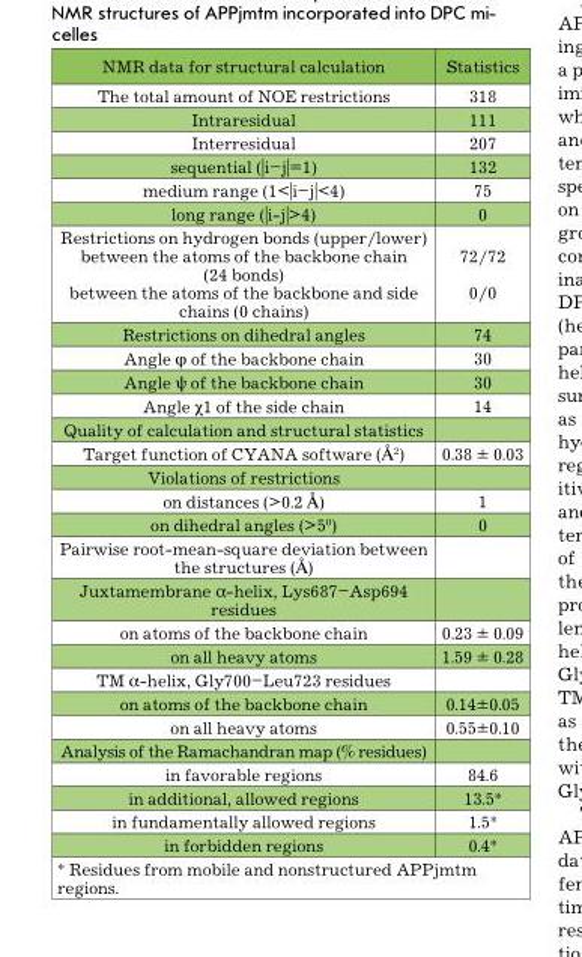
<table><thead><tr><td>NMR data for structural calculation</td><td>Statistics</td></tr></thead><tbody><tr><td>The total amount of NOE restrictions</td><td>318</td></tr><tr><td>Intraresidual</td><td>111</td></tr><tr><td>Interresidual</td><td>207</td></tr><tr><td>sequential (|i–j|=1)</td><td>132</td></tr><tr><td>medium range (1&lt;|i–j|&lt;4)</td><td>75</td></tr><tr><td>long range (|i-j|&gt;4)</td><td>0</td></tr><tr><td>Restrictions on hydrogen bonds (upper/lower) between the atoms of the backbone chain (24 bonds) between the atoms of the backbone and side chains (0 chains)</td><td>72/72 0/0</td></tr><tr><td>Restrictions on dihedral angles</td><td>74</td></tr><tr><td>Angle φ of the backbone chain</td><td>30</td></tr><tr><td>Angle ψ of the backbone chain</td><td>30</td></tr><tr><td>Angle χ1 of the side chain</td><td>14</td></tr><tr><td colspan="2">Quality of calculation and structural statistics</td></tr><tr><td>Target function of CYANA software (Å2)</td><td>0.38 ± 0.03</td></tr><tr><td colspan="2">Violations of restrictions</td></tr><tr><td>on distances (&gt;0.2 Å)</td><td>1</td></tr><tr><td>on dihedral angles (&gt;5<sup>0</sup>)</td><td>0</td></tr><tr><td colspan="2">Pairwise root-mean-square deviation between the structures (Å)</td></tr><tr><td colspan="2">Juxtamembrane α-helix, Lys687–Asp694 residues</td></tr><tr><td>on atoms of the backbone chain</td><td>0.23 ± 0.09</td></tr><tr><td>on all heavy atoms</td><td>1.59 ± 0.28</td></tr><tr><td colspan="2">ТМ α-helix, Gly700–Leu723 residues</td></tr><tr><td>on atoms of the backbone chain</td><td>0.14±0.05</td></tr><tr><td>on all heavy atoms</td><td>0.55±0.10</td></tr><tr><td colspan="2">Analysis of the Ramachandran map (% residues)</td></tr><tr><td>in favorable regions</td><td>84.6</td></tr><tr><td>in additional, allowed regions</td><td>13.5*</td></tr><tr><td>in fundamentally allowed regions</td><td>1.5*</td></tr><tr><td>in forbidden regions</td><td>0.4*</td></tr><tr><td colspan="2">* Residues from mobile and nonstructured APPjmtm regions.</td></tr></tbody></table>